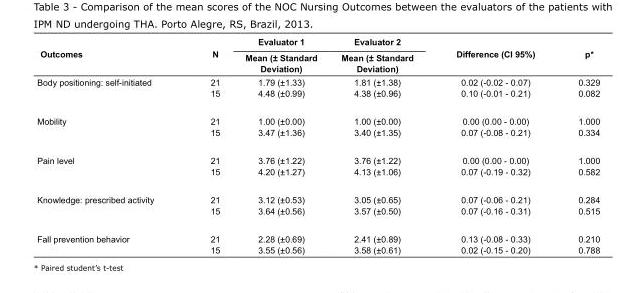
<table><thead><tr><td rowspan="2">Outcomes</td><td rowspan="2">N</td><td rowspan="2">Evaluator 1 Mean (± Standard Deviation)</td><td rowspan="2">Evaluator 2 Mean (± Standard Deviation)</td><td rowspan="2">Difference (CI 95%)</td><td rowspan="2">p*</td></tr><tr></tr></thead><tbody><tr><td>Body positioning: self-initiated</td><td>21 15</td><td>1.79 (±1.33) 4.48 (±0.99)</td><td>1.81 (±1.38) 4.38 (±0.96)</td><td>0.02 (-0.02 - 0.07) 0.10 (-0.01 - 0.21)</td><td>0.329 0.082</td></tr><tr><td>Mobility</td><td>21 15</td><td>1.00 (±0.00) 3.47 (±1.36)</td><td>1.00 (±0.00) 3.40 (±1.35)</td><td>0.00 (0.00 - 0.00) 0.07 (-0.08 - 0.21)</td><td>1.000 0.334</td></tr><tr><td>Pain level</td><td>21 15</td><td>3.76 (±1.22) 4.20 (±1.27)</td><td>3.76 (±1.22) 4.13 (±1.06)</td><td>0.00 (0.00 - 0.00) 0.07 (-0.19 - 0.32)</td><td>1.000 0.582</td></tr><tr><td>Knowledge: prescribed activity</td><td>21 15</td><td>3.12 (±0.53) 3.64 (±0.56)</td><td>3.05 (±0.65) 3.57 (±0.50)</td><td>0.07 (-0.06 - 0.21) 0.07 (-0.16 - 0.31)</td><td>0.284 0.515</td></tr><tr><td>Fall prevention behavior</td><td>21 15</td><td>2.28 (±0.69) 3.55 (±0.56)</td><td>2.41 (±0.89) 3.58 (±0.61)</td><td>0.13 (-0.08 - 0.33) 0.02 (-0.15 - 0.20)</td><td>0.210 0.788</td></tr></tbody></table>